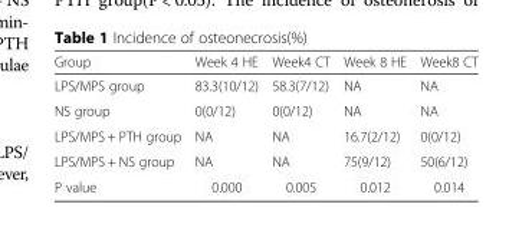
<table><thead><tr><td>Group</td><td>Week 4 HE</td><td>Week4 CT</td><td>Week 8 HE</td><td>Week8 CT</td></tr></thead><tbody><tr><td>LPS/MPS group</td><td>83.3(10/12)</td><td>58.3(7/12)</td><td>NA</td><td>NA</td></tr><tr><td>NS group</td><td>0(0/12)</td><td>0(0/12)</td><td>NA</td><td>NA</td></tr><tr><td>LPS/MPS + PTH group</td><td>NA</td><td>NA</td><td>16.7(2/12)</td><td>0(0/12)</td></tr><tr><td>LPS/MPS + NS group</td><td>NA</td><td>NA</td><td>75(9/12)</td><td>50(6/12)</td></tr><tr><td>P value</td><td>0.000</td><td>0.005</td><td>0.012</td><td>0.014</td></tr></tbody></table>